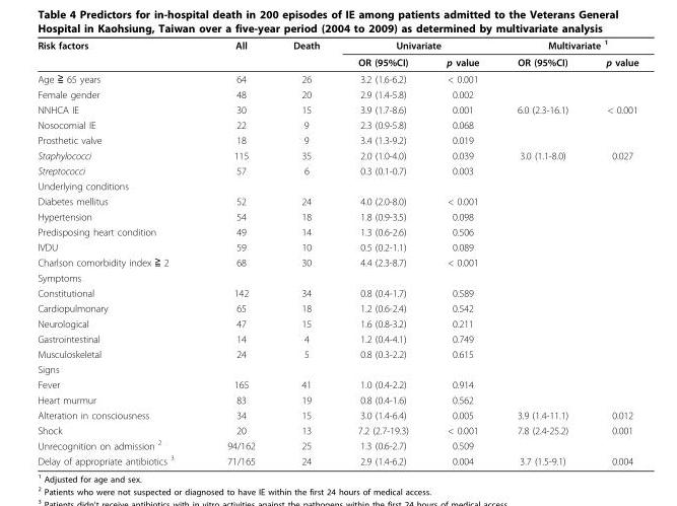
<table><thead><tr><td rowspan="2">Risk factors</td><td rowspan="2">All</td><td rowspan="2">Death</td><td colspan="2">Univariate</td><td colspan="2">Multivariate <sup>1</sup></td></tr><tr><td>OR (95%CI)</td><td>p value</td><td>OR (95%CI)</td><td>p value</td></tr></thead><tbody><tr><td>Age ≧ 65 years</td><td>64</td><td>26</td><td>3.2 (1.6-6.2)</td><td>&lt; 0.001</td><td></td><td></td></tr><tr><td>Female gender</td><td>48</td><td>20</td><td>2.9 (1.4-5.8)</td><td>0.002</td><td></td><td></td></tr><tr><td>NNHCA IE</td><td>30</td><td>15</td><td>3.9 (1.7-8.6)</td><td>0.001</td><td>6.0 (2.3-16.1)</td><td>&lt; 0.001</td></tr><tr><td>Nosocomial IE</td><td>22</td><td>9</td><td>2.3 (0.9-5.8)</td><td>0.068</td><td></td><td></td></tr><tr><td>Prosthetic valve</td><td>18</td><td>9</td><td>3.4 (1.3-9.2)</td><td>0.019</td><td></td><td></td></tr><tr><td>Staphylococci</td><td>115</td><td>35</td><td>2.0 (1.0-4.0)</td><td>0.039</td><td>3.0 (1.1-8.0)</td><td>0.027</td></tr><tr><td>Streptococci</td><td>57</td><td>6</td><td>0.3 (0.1-0.7)</td><td>0.003</td><td></td><td></td></tr><tr><td colspan="7">Underlying conditions</td></tr><tr><td>Diabetes mellitus</td><td>52</td><td>24</td><td>4.0 (2.0-8.0)</td><td>&lt; 0.001</td><td></td><td></td></tr><tr><td>Hypertension</td><td>54</td><td>18</td><td>1.8 (0.9-3.5)</td><td>0.098</td><td></td><td></td></tr><tr><td>Predisposing heart condition</td><td>49</td><td>14</td><td>1.3 (0.6-2.6)</td><td>0.506</td><td></td><td></td></tr><tr><td>IVDU</td><td>59</td><td>10</td><td>0.5 (0.2-1.1)</td><td>0.089</td><td></td><td></td></tr><tr><td>Charlson comorbidity index ≧ 2</td><td>68</td><td>30</td><td>4.4 (2.3-8.7)</td><td>&lt; 0.001</td><td></td><td></td></tr><tr><td colspan="7">Symptoms</td></tr><tr><td>Constitutional</td><td>142</td><td>34</td><td>0.8 (0.4-1.7)</td><td>0.589</td><td></td><td></td></tr><tr><td>Cardiopulmonary</td><td>65</td><td>18</td><td>1.2 (0.6-2.4)</td><td>0.542</td><td></td><td></td></tr><tr><td>Neurological</td><td>47</td><td>15</td><td>1.6 (0.8-3.2)</td><td>0.211</td><td></td><td></td></tr><tr><td>Gastrointestinal</td><td>14</td><td>4</td><td>1.2 (0.4-4.1)</td><td>0.749</td><td></td><td></td></tr><tr><td>Musculoskeletal</td><td>24</td><td>5</td><td>0.8 (0.3-2.2)</td><td>0.615</td><td></td><td></td></tr><tr><td colspan="7">Signs</td></tr><tr><td>Fever</td><td>165</td><td>41</td><td>1.0 (0.4-2.2)</td><td>0.914</td><td></td><td></td></tr><tr><td>Heart murmur</td><td>83</td><td>19</td><td>0.8 (0.4-1.6)</td><td>0.562</td><td></td><td></td></tr><tr><td>Alteration in consciousness</td><td>34</td><td>15</td><td>3.0 (1.4-6.4)</td><td>0.005</td><td>3.9 (1.4-11.1)</td><td>0.012</td></tr><tr><td>Shock</td><td>20</td><td>13</td><td>7.2 (2.7-19.3)</td><td>&lt; 0.001</td><td>7.8 (2.4-25.2)</td><td>0.001</td></tr><tr><td>Unrecognition on admission <sup>2</sup></td><td>94/162</td><td>25</td><td>1.3 (0.6-2.7)</td><td>0.509</td><td></td><td></td></tr><tr><td>Delay of appropriate antibiotics <sup>3</sup></td><td>71/165</td><td>24</td><td>2.9 (1.4-6.2)</td><td>0.004</td><td>3.7 (1.5-9.1)</td><td>0.004</td></tr></tbody></table>